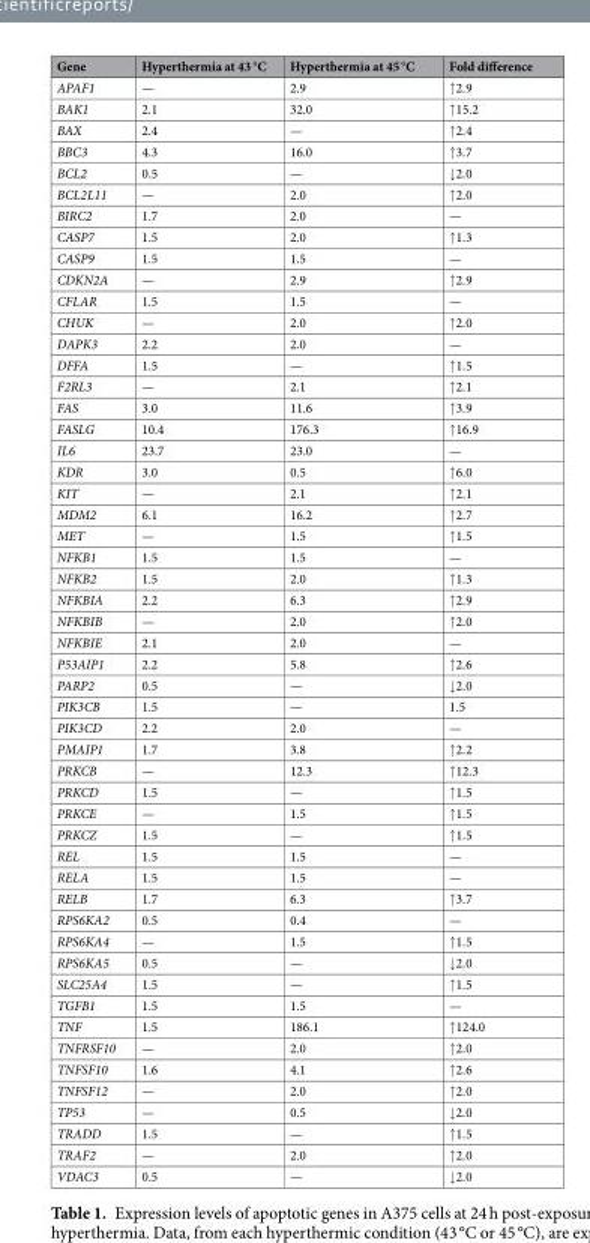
<table><thead><tr><td>Gene</td><td>Hyperthermia at 43 °C</td><td>Hyperthermia at 45 °C</td><td>Fold difference</td></tr></thead><tbody><tr><td>APAF1</td><td>—</td><td>2.9</td><td>↑2.9</td></tr><tr><td>BAK1</td><td>2.1</td><td>32.0</td><td>↑15.2</td></tr><tr><td>BAX</td><td>2.4</td><td>—</td><td>↑2.4</td></tr><tr><td>BBC3</td><td>4.3</td><td>16.0</td><td>↑3.7</td></tr><tr><td>BCL2</td><td>0.5</td><td>—</td><td>↓2.0</td></tr><tr><td>BCL2L11</td><td>—</td><td>2.0</td><td>↑2.0</td></tr><tr><td>BIRC2</td><td>1.7</td><td>2.0</td><td>—</td></tr><tr><td>CASP7</td><td>1.5</td><td>2.0</td><td>↑1.3</td></tr><tr><td>CASP9</td><td>1.5</td><td>1.5</td><td>—</td></tr><tr><td>CDKN2A</td><td>—</td><td>2.9</td><td>↑2.9</td></tr><tr><td>CFLAR</td><td>1.5</td><td>1.5</td><td>—</td></tr><tr><td>CHUK</td><td>—</td><td>2.0</td><td>↑2.0</td></tr><tr><td>DAPK3</td><td>2.2</td><td>2.0</td><td>—</td></tr><tr><td>DFFA</td><td>1.5</td><td>—</td><td>↑1.5</td></tr><tr><td>F2RL3</td><td>—</td><td>2.1</td><td>↑2.1</td></tr><tr><td>FAS</td><td>3.0</td><td>11.6</td><td>↑3.9</td></tr><tr><td>FASLG</td><td>10.4</td><td>176.3</td><td>↑16.9</td></tr><tr><td>IL6</td><td>23.7</td><td>23.0</td><td>—</td></tr><tr><td>KDR</td><td>3.0</td><td>0.5</td><td>↑6.0</td></tr><tr><td>KIT</td><td>—</td><td>2.1</td><td>↑2.1</td></tr><tr><td>MDM2</td><td>6.1</td><td>16.2</td><td>↑2.7</td></tr><tr><td>MET</td><td>—</td><td>1.5</td><td>↑1.5</td></tr><tr><td>NFKB1</td><td>1.5</td><td>1.5</td><td>—</td></tr><tr><td>NFKB2</td><td>1.5</td><td>2.0</td><td>↑1.3</td></tr><tr><td>NFKBIA</td><td>2.2</td><td>6.3</td><td>↑2.9</td></tr><tr><td>NFKBIB</td><td>—</td><td>2.0</td><td>↑2.0</td></tr><tr><td>NFKBIE</td><td>2.1</td><td>2.0</td><td>—</td></tr><tr><td>P53AIP1</td><td>2.2</td><td>5.8</td><td>↑2.6</td></tr><tr><td>PARP2</td><td>0.5</td><td>—</td><td>↓2.0</td></tr><tr><td>PIK3CB</td><td>1.5</td><td>—</td><td>1.5</td></tr><tr><td>PIK3CD</td><td>2.2</td><td>2.0</td><td>—</td></tr><tr><td>PMAIP1</td><td>1.7</td><td>3.8</td><td>↑2.2</td></tr><tr><td>PRKCB</td><td>—</td><td>12.3</td><td>↑12.3</td></tr><tr><td>PRKCD</td><td>1.5</td><td>—</td><td>↑1.5</td></tr><tr><td>PRKCE</td><td>—</td><td>1.5</td><td>↑1.5</td></tr><tr><td>PRKCZ</td><td>1.5</td><td>—</td><td>↑1.5</td></tr><tr><td>REL</td><td>1.5</td><td>1.5</td><td>—</td></tr><tr><td>RELA</td><td>1.5</td><td>1.5</td><td>—</td></tr><tr><td>RELB</td><td>1.7</td><td>6.3</td><td>↑3.7</td></tr><tr><td>RPS6KA2</td><td>0.5</td><td>0.4</td><td>—</td></tr><tr><td>RPS6KA4</td><td>—</td><td>1.5</td><td>↑1.5</td></tr><tr><td>RPS6KA5</td><td>0.5</td><td>—</td><td>↓2.0</td></tr><tr><td>SLC25A4</td><td>1.5</td><td>—</td><td>↑1.5</td></tr><tr><td>TGFB1</td><td>1.5</td><td>1.5</td><td>—</td></tr><tr><td>TNF</td><td>1.5</td><td>186.1</td><td>↑124.0</td></tr><tr><td>TNFRSF10</td><td>—</td><td>2.0</td><td>↑2.0</td></tr><tr><td>TNFSF10</td><td>1.6</td><td>4.1</td><td>↑2.6</td></tr><tr><td>TNFSF12</td><td>—</td><td>2.0</td><td>↑2.0</td></tr><tr><td>TP53</td><td>—</td><td>0.5</td><td>↓2.0</td></tr><tr><td>TRADD</td><td>1.5</td><td>—</td><td>↑1.5</td></tr><tr><td>TRAF2</td><td>—</td><td>2.0</td><td>↑2.0</td></tr><tr><td>VDAC3</td><td>0.5</td><td>—</td><td>↓2.0</td></tr></tbody></table>